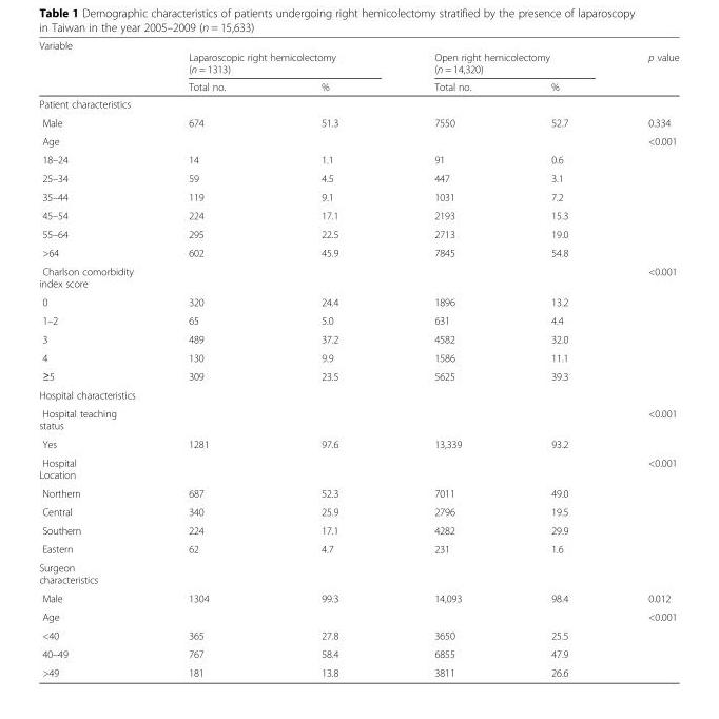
<table><thead><tr><td rowspan="2">Variable</td><td colspan="2">Laparoscopic right hemicolectomy (n = 1313)</td><td colspan="2">Open right hemicolectomy (n = 14,320)</td><td rowspan="2">p value</td></tr><tr><td>Total no.</td><td>%</td><td>Total no.</td><td>%</td></tr></thead><tbody><tr><td colspan="6">Patient characteristics</td></tr><tr><td>Male</td><td>674</td><td>51.3</td><td>7550</td><td>52.7</td><td>0.334</td></tr><tr><td>Age</td><td></td><td></td><td></td><td></td><td>&lt;0.001</td></tr><tr><td>18–24</td><td>14</td><td>1.1</td><td>91</td><td>0.6</td><td></td></tr><tr><td>25–34</td><td>59</td><td>4.5</td><td>447</td><td>3.1</td><td></td></tr><tr><td>35–44</td><td>119</td><td>9.1</td><td>1031</td><td>7.2</td><td></td></tr><tr><td>45–54</td><td>224</td><td>17.1</td><td>2193</td><td>15.3</td><td></td></tr><tr><td>55–64</td><td>295</td><td>22.5</td><td>2713</td><td>19.0</td><td></td></tr><tr><td>&gt;64</td><td>602</td><td>45.9</td><td>7845</td><td>54.8</td><td></td></tr><tr><td>Charlson comorbidity index score</td><td></td><td></td><td></td><td></td><td>&lt;0.001</td></tr><tr><td>0</td><td>320</td><td>24.4</td><td>1896</td><td>13.2</td><td></td></tr><tr><td>1–2</td><td>65</td><td>5.0</td><td>631</td><td>4.4</td><td></td></tr><tr><td>3</td><td>489</td><td>37.2</td><td>4582</td><td>32.0</td><td></td></tr><tr><td>4</td><td>130</td><td>9.9</td><td>1586</td><td>11.1</td><td></td></tr><tr><td>≥5</td><td>309</td><td>23.5</td><td>5625</td><td>39.3</td><td></td></tr><tr><td colspan="6">Hospital characteristics</td></tr><tr><td>Hospital teaching status</td><td></td><td></td><td></td><td></td><td>&lt;0.001</td></tr><tr><td>Yes</td><td>1281</td><td>97.6</td><td>13,339</td><td>93.2</td><td></td></tr><tr><td>Hospital Location</td><td></td><td></td><td></td><td></td><td>&lt;0.001</td></tr><tr><td>Northern</td><td>687</td><td>52.3</td><td>7011</td><td>49.0</td><td></td></tr><tr><td>Central</td><td>340</td><td>25.9</td><td>2796</td><td>19.5</td><td></td></tr><tr><td>Southern</td><td>224</td><td>17.1</td><td>4282</td><td>29.9</td><td></td></tr><tr><td>Eastern</td><td>62</td><td>4.7</td><td>231</td><td>1.6</td><td></td></tr><tr><td colspan="6">Surgeon characteristics</td></tr><tr><td>Male</td><td>1304</td><td>99.3</td><td>14,093</td><td>98.4</td><td>0.012</td></tr><tr><td>Age</td><td></td><td></td><td></td><td></td><td>&lt;0.001</td></tr><tr><td>&lt;40</td><td>365</td><td>27.8</td><td>3650</td><td>25.5</td><td></td></tr><tr><td>40–49</td><td>767</td><td>58.4</td><td>6855</td><td>47.9</td><td></td></tr><tr><td>&gt;49</td><td>181</td><td>13.8</td><td>3811</td><td>26.6</td><td></td></tr></tbody></table>